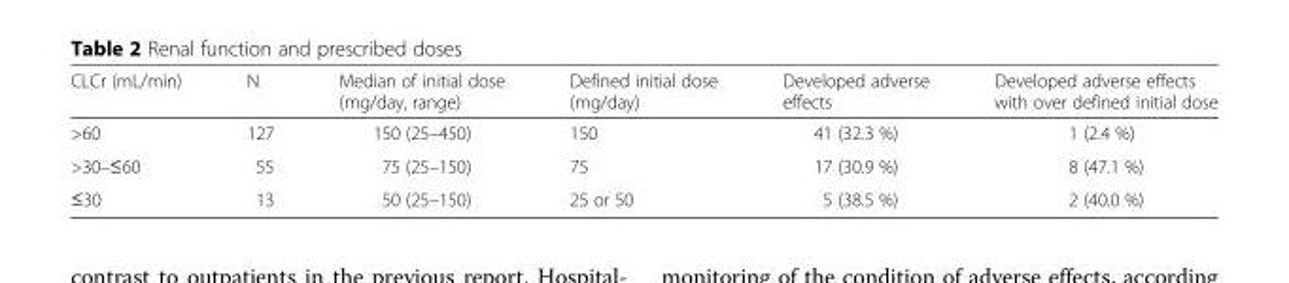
<table><thead><tr><td>CLCr (mL/min)</td><td>N</td><td>Median of initial dose (mg/day, range)</td><td>Defined initial dose (mg/day)</td><td>Developed adverse effects</td><td>Developed adverse effects with over defined initial dose</td></tr></thead><tbody><tr><td>&gt;60</td><td>127</td><td>150 (25–450)</td><td>150</td><td>41 (32.3 %)</td><td>1 (2.4 %)</td></tr><tr><td>&gt;30–≤60</td><td>55</td><td>75 (25–150)</td><td>75</td><td>17 (30.9 %)</td><td>8 (47.1 %)</td></tr><tr><td>≤30</td><td>13</td><td>50 (25–150)</td><td>25 or 50</td><td>5 (38.5 %)</td><td>2 (40.0 %)</td></tr></tbody></table>